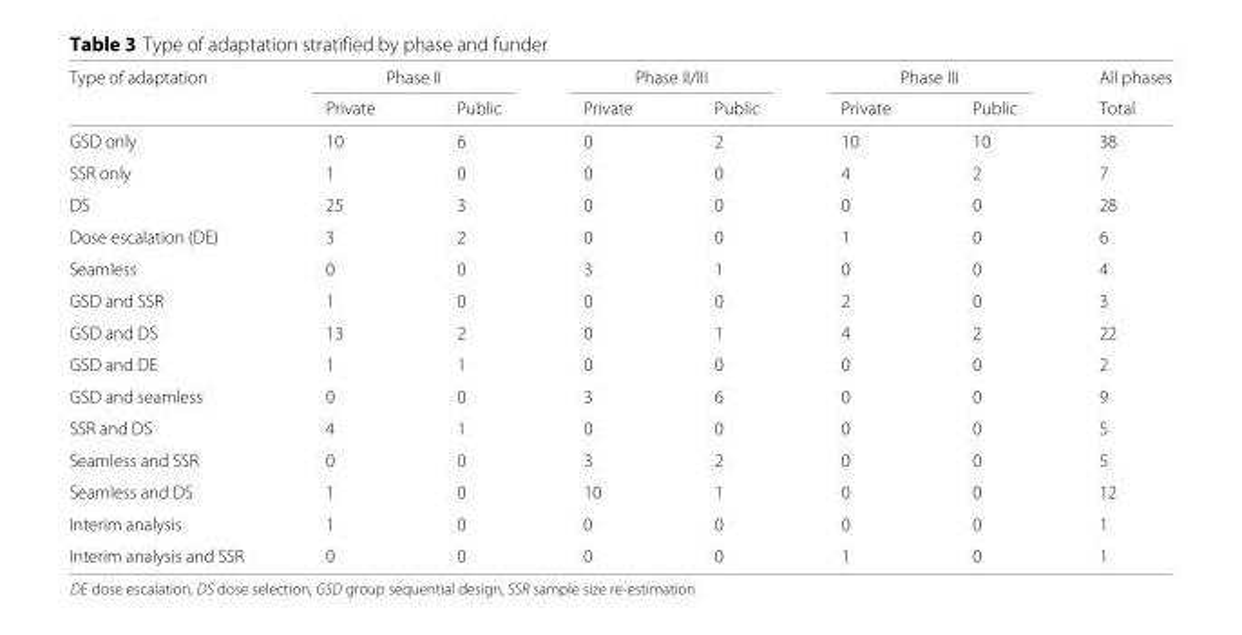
<table><thead><tr><td rowspan="2">Type of adaptation</td><td colspan="2">Phase II</td><td colspan="2">Phase II/III</td><td colspan="2">Phase III</td><td rowspan="2">All phases Total</td></tr><tr><td>Private</td><td>Public</td><td>Private</td><td>Public</td><td>Private</td><td>Public</td></tr></thead><tbody><tr><td>GSD only</td><td>10</td><td>6</td><td>0</td><td>2</td><td>10</td><td>10</td><td>38</td></tr><tr><td>SSR only</td><td>1</td><td>0</td><td>0</td><td>0</td><td>4</td><td>2</td><td>7</td></tr><tr><td>DS</td><td>25</td><td>3</td><td>0</td><td>0</td><td>0</td><td>0</td><td>28</td></tr><tr><td>Dose escalation (DE)</td><td>3</td><td>2</td><td>0</td><td>0</td><td>1</td><td>0</td><td>6</td></tr><tr><td>Seamless</td><td>0</td><td>0</td><td>3</td><td>1</td><td>0</td><td>0</td><td>4</td></tr><tr><td>GSD and SSR</td><td>1</td><td>0</td><td>0</td><td>0</td><td>2</td><td>0</td><td>3</td></tr><tr><td>GSD and DS</td><td>13</td><td>2</td><td>0</td><td>1</td><td>4</td><td>2</td><td>22</td></tr><tr><td>GSD and DE</td><td>1</td><td>1</td><td>0</td><td>0</td><td>0</td><td>0</td><td>2</td></tr><tr><td>GSD and seamless</td><td>0</td><td>0</td><td>3</td><td>6</td><td>0</td><td>0</td><td>9</td></tr><tr><td>SSR and DS</td><td>4</td><td>1</td><td>0</td><td>0</td><td>0</td><td>0</td><td>5</td></tr><tr><td>Seamless and SSR</td><td>0</td><td>0</td><td>3</td><td>2</td><td>0</td><td>0</td><td>5</td></tr><tr><td>Seamless and DS</td><td>1</td><td>0</td><td>10</td><td>1</td><td>0</td><td>0</td><td>12</td></tr><tr><td>Interim analysis</td><td>1</td><td>0</td><td>0</td><td>0</td><td>0</td><td>0</td><td>1</td></tr><tr><td>Interim analysis and SSR</td><td>0</td><td>0</td><td>0</td><td>0</td><td>1</td><td>0</td><td>1</td></tr></tbody></table>